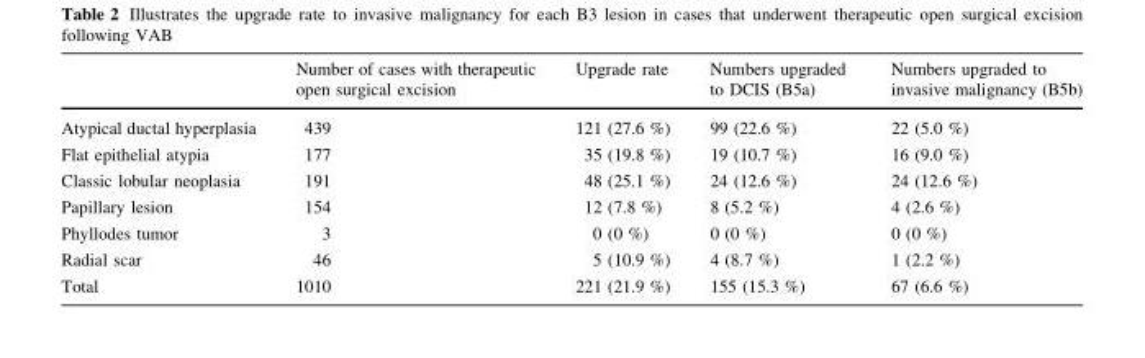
<table><thead><tr><td></td><td>Number of cases with therapeutic open surgical excision</td><td>Upgrade rate</td><td>Numbers upgraded to DCIS (B5a)</td><td>Numbers upgraded to invasive malignancy (B5b)</td></tr></thead><tbody><tr><td>Atypical ductal hyperplasia</td><td>439</td><td>121 (27.6 %)</td><td>99 (22.6 %)</td><td>22 (5.0 %)</td></tr><tr><td>Flat epithelial atypia</td><td>177</td><td>35 (19.8 %)</td><td>19 (10.7 %)</td><td>16 (9.0 %)</td></tr><tr><td>Classic lobular neoplasia</td><td>191</td><td>48 (25.1 %)</td><td>24 (12.6 %)</td><td>24 (12.6 %)</td></tr><tr><td>Papillary lesion</td><td>154</td><td>12 (7.8 %)</td><td>8 (5.2 %)</td><td>4 (2.6 %)</td></tr><tr><td>Phyllodes tumor</td><td>3</td><td>0 (0 %)</td><td>0 (0 %)</td><td>0 (0 %)</td></tr><tr><td>Radial scar</td><td>46</td><td>5 (10.9 %)</td><td>4 (8.7 %)</td><td>1 (2.2 %)</td></tr><tr><td>Total</td><td>1010</td><td>221 (21.9 %)</td><td>155 (15.3 %)</td><td>67 (6.6 %)</td></tr></tbody></table>